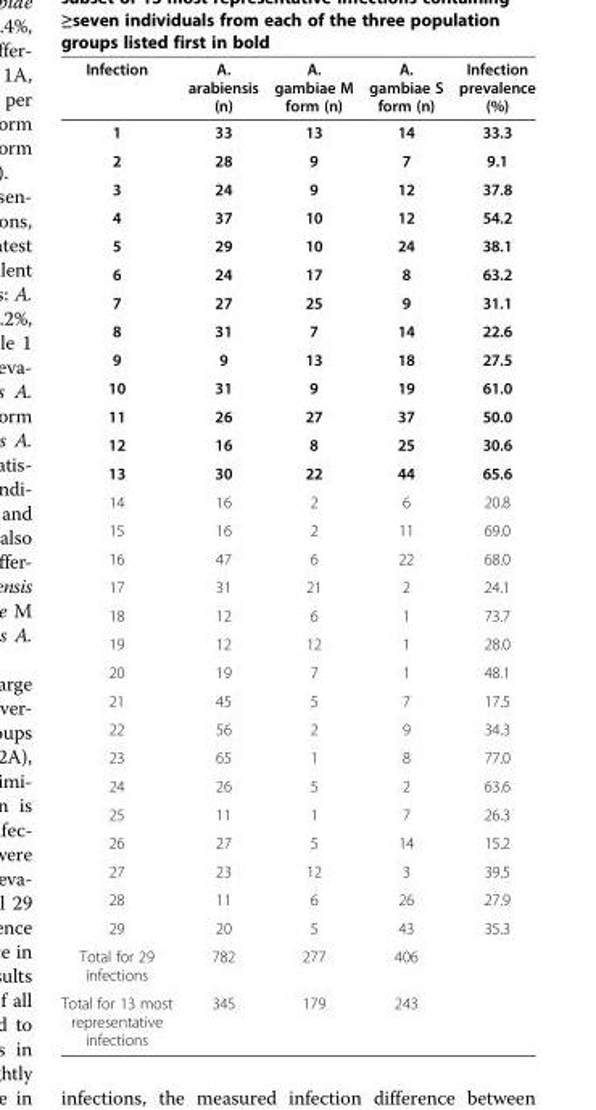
<table><thead><tr><td>Infection</td><td>A. arabiensis (n)</td><td>A. gambiae M form (n)</td><td>A. gambiae S form (n)</td><td>Infection prevalence (%)</td></tr></thead><tbody><tr><td>1</td><td>33</td><td>13</td><td>14</td><td>33.3</td></tr><tr><td>2</td><td>28</td><td>9</td><td>7</td><td>9.1</td></tr><tr><td>3</td><td>24</td><td>9</td><td>12</td><td>37.8</td></tr><tr><td>4</td><td>37</td><td>10</td><td>12</td><td>54.2</td></tr><tr><td>5</td><td>29</td><td>10</td><td>24</td><td>38.1</td></tr><tr><td>6</td><td>24</td><td>17</td><td>8</td><td>63.2</td></tr><tr><td>7</td><td>27</td><td>25</td><td>9</td><td>31.1</td></tr><tr><td>8</td><td>31</td><td>7</td><td>14</td><td>22.6</td></tr><tr><td>9</td><td>9</td><td>13</td><td>18</td><td>27.5</td></tr><tr><td>10</td><td>31</td><td>9</td><td>19</td><td>61.0</td></tr><tr><td>11</td><td>26</td><td>27</td><td>37</td><td>50.0</td></tr><tr><td>12</td><td>16</td><td>8</td><td>25</td><td>30.6</td></tr><tr><td>13</td><td>30</td><td>22</td><td>44</td><td>65.6</td></tr><tr><td>14</td><td>16</td><td>2</td><td>6</td><td>20.8</td></tr><tr><td>15</td><td>16</td><td>2</td><td>11</td><td>69.0</td></tr><tr><td>16</td><td>47</td><td>6</td><td>22</td><td>68.0</td></tr><tr><td>17</td><td>31</td><td>21</td><td>2</td><td>24.1</td></tr><tr><td>18</td><td>12</td><td>6</td><td>1</td><td>73.7</td></tr><tr><td>19</td><td>12</td><td>12</td><td>1</td><td>28.0</td></tr><tr><td>20</td><td>19</td><td>7</td><td>1</td><td>48.1</td></tr><tr><td>21</td><td>45</td><td>5</td><td>7</td><td>17.5</td></tr><tr><td>22</td><td>56</td><td>2</td><td>9</td><td>34.3</td></tr><tr><td>23</td><td>65</td><td>1</td><td>8</td><td>77.0</td></tr><tr><td>24</td><td>26</td><td>5</td><td>2</td><td>63.6</td></tr><tr><td>25</td><td>11</td><td>1</td><td>7</td><td>26.3</td></tr><tr><td>26</td><td>27</td><td>5</td><td>14</td><td>15.2</td></tr><tr><td>27</td><td>23</td><td>12</td><td>3</td><td>39.5</td></tr><tr><td>28</td><td>11</td><td>6</td><td>26</td><td>27.9</td></tr><tr><td>29</td><td>20</td><td>5</td><td>43</td><td>35.3</td></tr><tr><td>Total for 29 infections</td><td>782</td><td>277</td><td>406</td><td></td></tr><tr><td>Total for 13 most representative infections</td><td>345</td><td>179</td><td>243</td><td></td></tr></tbody></table>